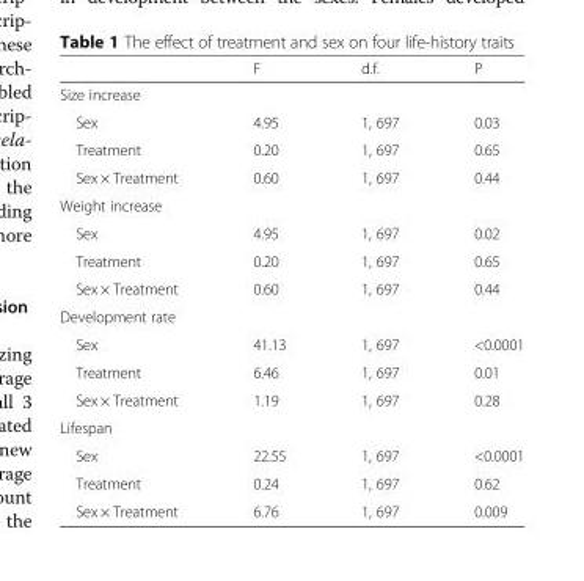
<table><thead><tr><td></td><td>F</td><td>d.f.</td><td>P</td></tr></thead><tbody><tr><td colspan="4">Size increase</td></tr><tr><td>Sex</td><td>4.95</td><td>1, 697</td><td>0.03</td></tr><tr><td>Treatment</td><td>0.20</td><td>1, 697</td><td>0.65</td></tr><tr><td>Sex × Treatment</td><td>0.60</td><td>1, 697</td><td>0.44</td></tr><tr><td colspan="4">Weight increase</td></tr><tr><td>Sex</td><td>4.95</td><td>1, 697</td><td>0.02</td></tr><tr><td>Treatment</td><td>0.20</td><td>1, 697</td><td>0.65</td></tr><tr><td>Sex × Treatment</td><td>0.60</td><td>1, 697</td><td>0.44</td></tr><tr><td colspan="4">Development rate</td></tr><tr><td>Sex</td><td>41.13</td><td>1, 697</td><td>&lt;0.0001</td></tr><tr><td>Treatment</td><td>6.46</td><td>1, 697</td><td>0.01</td></tr><tr><td>Sex × Treatment</td><td>1.19</td><td>1, 697</td><td>0.28</td></tr><tr><td colspan="4">Lifespan</td></tr><tr><td>Sex</td><td>22.55</td><td>1, 697</td><td>&lt;0.0001</td></tr><tr><td>Treatment</td><td>0.24</td><td>1, 697</td><td>0.62</td></tr><tr><td>Sex × Treatment</td><td>6.76</td><td>1, 697</td><td>0.009</td></tr></tbody></table>